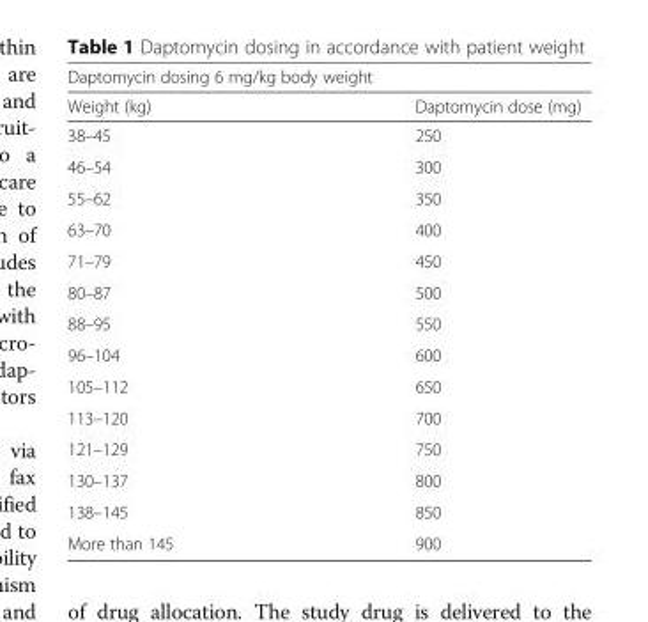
<table><thead><tr><td colspan="2">Daptomycin dosing 6 mg/kg body weight</td></tr><tr><td>Weight (kg)</td><td>Daptomycin dose (mg)</td></tr></thead><tbody><tr><td>38–45</td><td>250</td></tr><tr><td>46–54</td><td>300</td></tr><tr><td>55–62</td><td>350</td></tr><tr><td>63–70</td><td>400</td></tr><tr><td>71–79</td><td>450</td></tr><tr><td>80–87</td><td>500</td></tr><tr><td>88–95</td><td>550</td></tr><tr><td>96–104</td><td>600</td></tr><tr><td>105–112</td><td>650</td></tr><tr><td>113–120</td><td>700</td></tr><tr><td>121–129</td><td>750</td></tr><tr><td>130–137</td><td>800</td></tr><tr><td>138–145</td><td>850</td></tr><tr><td>More than 145</td><td>900</td></tr></tbody></table>